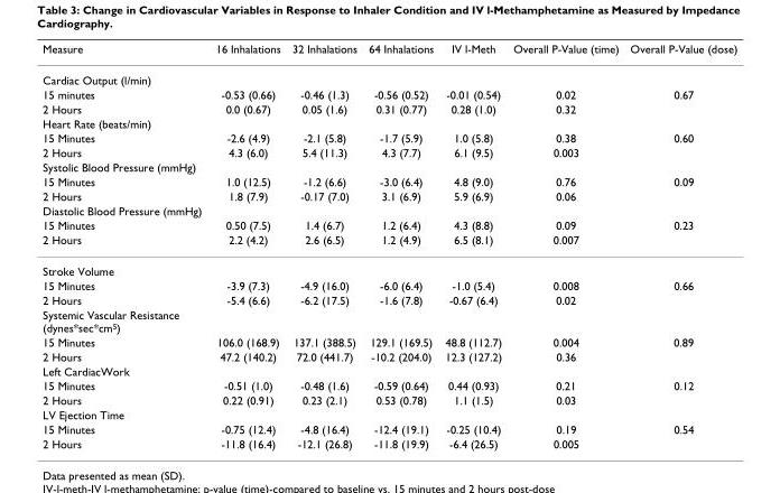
<table><thead><tr><td>Measure</td><td>16 Inhalations</td><td>32 Inhalations</td><td>64 Inhalations</td><td>IV l-Meth</td><td>Overall P-Value (time)</td><td>Overall P-Value (dose)</td></tr></thead><tbody><tr><td colspan="7">Cardiac Output (l/min)</td></tr><tr><td>15 minutes</td><td>-0.53 (0.66)</td><td>-0.46 (1.3)</td><td>-0.56 (0.52)</td><td>-0.01 (0.54)</td><td>0.02</td><td>0.67</td></tr><tr><td>2 Hours</td><td>0.0 (0.67)</td><td>0.05 (1.6)</td><td>0.31 (0.77)</td><td>0.28 (1.0)</td><td>0.32</td><td></td></tr><tr><td colspan="7">Heart Rate (beats/min)</td></tr><tr><td>15 Minutes</td><td>-2.6 (4.9)</td><td>-2.1 (5.8)</td><td>-1.7 (5.9)</td><td>1.0 (5.8)</td><td>0.38</td><td>0.60</td></tr><tr><td>2 Hours</td><td>4.3 (6.0)</td><td>5.4 (11.3)</td><td>4.3 (7.7)</td><td>6.1 (9.5)</td><td>0.003</td><td></td></tr><tr><td colspan="7">Systolic Blood Pressure (mmHg)</td></tr><tr><td>15 Minutes</td><td>1.0 (12.5)</td><td>-1.2 (6.6)</td><td>-3.0 (6.4)</td><td>4.8 (9.0)</td><td>0.76</td><td>0.09</td></tr><tr><td>2 Hours</td><td>1.8 (7.9)</td><td>-0.17 (7.0)</td><td>3.1 (6.9)</td><td>5.9 (6.9)</td><td>0.06</td><td></td></tr><tr><td colspan="7">Diastolic Blood Pressure (mmHg)</td></tr><tr><td>15 Minutes</td><td>0.50 (7.5)</td><td>1.4 (6.7)</td><td>1.2 (6.4)</td><td>4.3 (8.8)</td><td>0.09</td><td>0.23</td></tr><tr><td>2 Hours</td><td>2.2 (4.2)</td><td>2.6 (6.5)</td><td>1.2 (4.9)</td><td>6.5 (8.1)</td><td>0.007</td><td></td></tr><tr><td colspan="7">Stroke Volume</td></tr><tr><td>15 Minutes</td><td>-3.9 (7.3)</td><td>-4.9 (16.0)</td><td>-6.0 (6.4)</td><td>-1.0 (5.4)</td><td>0.008</td><td>0.66</td></tr><tr><td>2 Hours</td><td>-5.4 (6.6)</td><td>-6.2 (17.5)</td><td>-1.6 (7.8)</td><td>-0.67 (6.4)</td><td>0.02</td><td></td></tr><tr><td colspan="7">Systemic Vascular Resistance (dynes*sec*cm<sup>5</sup>)</td></tr><tr><td>15 Minutes</td><td>106.0 (168.9)</td><td>137.1 (388.5)</td><td>129.1 (169.5)</td><td>48.8 (112.7)</td><td>0.004</td><td>0.89</td></tr><tr><td>2 Hours</td><td>47.2 (140.2)</td><td>72.0 (441.7)</td><td>-10.2 (204.0)</td><td>12.3 (127.2)</td><td>0.36</td><td></td></tr><tr><td colspan="7">Left CardiacWork</td></tr><tr><td>15 Minutes</td><td>-0.51 (1.0)</td><td>-0.48 (1.6)</td><td>-0.59 (0.64)</td><td>0.44 (0.93)</td><td>0.21</td><td>0.12</td></tr><tr><td>2 Hours</td><td>0.22 (0.91)</td><td>0.23 (2.1)</td><td>0.53 (0.78)</td><td>1.1 (1.5)</td><td>0.03</td><td></td></tr><tr><td colspan="7">LV Ejection Time</td></tr><tr><td>15 Minutes</td><td>-0.75 (12.4)</td><td>-4.8 (16.4)</td><td>-12.4 (19.1)</td><td>-0.25 (10.4)</td><td>0.19</td><td>0.54</td></tr><tr><td>2 Hours</td><td>-11.8 (16.4)</td><td>-12.1 (26.8)</td><td>-11.8 (19.9)</td><td>-6.4 (26.5)</td><td>0.005</td><td></td></tr></tbody></table>